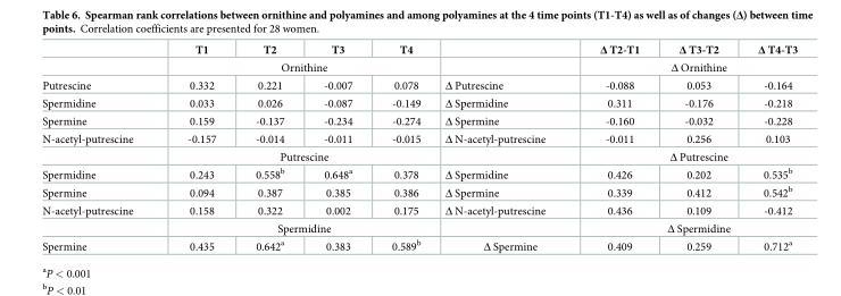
<table><thead><tr><td></td><td>T1</td><td>T2</td><td>T3</td><td>T4</td><td></td><td>Δ T2-T1</td><td>Δ T3-T2</td><td>Δ T4-T3</td></tr></thead><tbody><tr><td></td><td colspan="4">Ornithine</td><td></td><td colspan="3">Δ Ornithine</td></tr><tr><td>Putrescine</td><td>0.332</td><td>0.221</td><td>-0.007</td><td>0.078</td><td>Δ Putrescine</td><td>-0.088</td><td>0.053</td><td>-0.164</td></tr><tr><td>Spermidine</td><td>0.033</td><td>0.026</td><td>-0.087</td><td>-0.149</td><td>Δ Spermidine</td><td>0.311</td><td>-0.176</td><td>-0.218</td></tr><tr><td>Spermine</td><td>0.159</td><td>-0.137</td><td>-0.234</td><td>-0.274</td><td>Δ Spermine</td><td>-0.160</td><td>-0.032</td><td>-0.228</td></tr><tr><td rowspan="2">N-acetyl-putrescine</td><td>-0.157</td><td>-0.014</td><td>-0.011</td><td>-0.015</td><td>Δ N-acetyl-putrescine</td><td>-0.011</td><td>0.256</td><td>0.103</td></tr><tr><td colspan="4">Putrescine</td><td></td><td colspan="3">Δ Putrescine</td></tr><tr><td>Spermidine</td><td>0.243</td><td>0.558<sup>b</sup></td><td>0.648<sup>a</sup></td><td>0.378</td><td>Δ Spermidine</td><td>0.426</td><td>0.202</td><td>0.535<sup>b</sup></td></tr><tr><td>Spermine</td><td>0.094</td><td>0.387</td><td>0.385</td><td>0.386</td><td>Δ Spermine</td><td>0.339</td><td>0.412</td><td>0.542<sup>b</sup></td></tr><tr><td rowspan="2">N-acetyl-putrescine</td><td>0.158</td><td>0.322</td><td>0.002</td><td>0.175</td><td>Δ N-acetyl-putrescine</td><td>0.436</td><td>0.109</td><td>-0.412</td></tr><tr><td colspan="4">Spermidine</td><td></td><td colspan="3">Δ Spermidine</td></tr><tr><td>Spermine</td><td>0.435</td><td>0.642<sup>a</sup></td><td>0.383</td><td>0.589<sup>b</sup></td><td>Δ Spermine</td><td>0.409</td><td>0.259</td><td>0.712<sup>a</sup></td></tr></tbody></table>